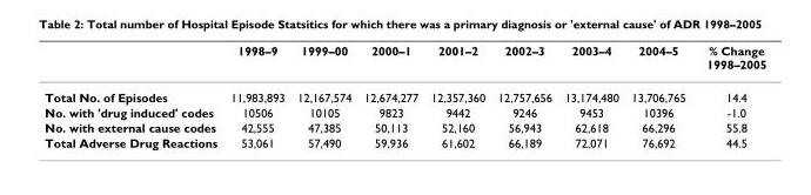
<table><thead><tr><td></td><td>1998–9</td><td>1999–00</td><td>2000–1</td><td>2001–2</td><td>2002–3</td><td>2003–4</td><td>2004–5</td><td>% Change 1998–2005</td></tr></thead><tbody><tr><td>Total No. of Episodes</td><td>11,983,893</td><td>12,167,574</td><td>12,674,277</td><td>12,357,360</td><td>12,757,656</td><td>13,174,480</td><td>13,706,765</td><td>14.4</td></tr><tr><td>No. with &#x27;drug induced&#x27; codes</td><td>10506</td><td>10105</td><td>9823</td><td>9442</td><td>9246</td><td>9453</td><td>10396</td><td>-1.0</td></tr><tr><td>No. with external cause codes</td><td>42,555</td><td>47,385</td><td>50,113</td><td>52,160</td><td>56,943</td><td>62,618</td><td>66,296</td><td>55.8</td></tr><tr><td>Total Adverse Drug Reactions</td><td>53,061</td><td>57,490</td><td>59,936</td><td>61,602</td><td>66,189</td><td>72,071</td><td>76,692</td><td>44.5</td></tr></tbody></table>